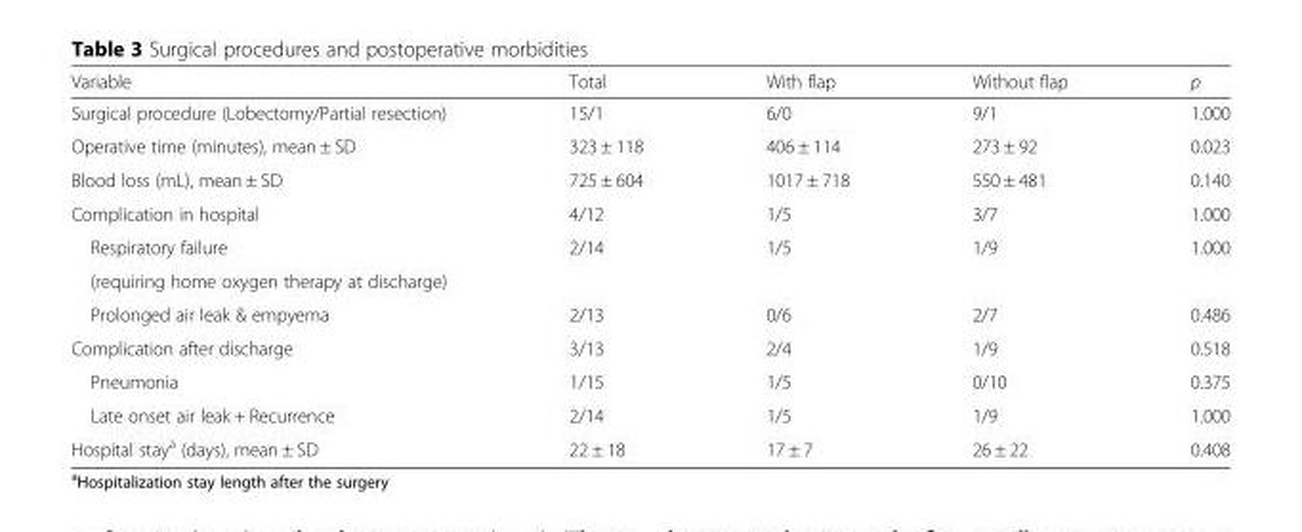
<table><thead><tr><td>Variable</td><td>Total</td><td>With flap</td><td>Without flap</td><td>p</td></tr></thead><tbody><tr><td>Surgical procedure (Lobectomy/Partial resection)</td><td>15/1</td><td>6/0</td><td>9/1</td><td>1.000</td></tr><tr><td>Operative time (minutes), mean ± SD</td><td>323 ± 118</td><td>406 ± 114</td><td>273 ± 92</td><td>0.023</td></tr><tr><td>Blood loss (mL), mean ± SD</td><td>725 ± 604</td><td>1017 ± 718</td><td>550 ± 481</td><td>0.140</td></tr><tr><td>Complication in hospital</td><td>4/12</td><td>1/5</td><td>3/7</td><td>1.000</td></tr><tr><td>Respiratory failure</td><td rowspan="2">2/14</td><td rowspan="2">1/5</td><td rowspan="2">1/9</td><td rowspan="2">1.000</td></tr><tr><td>(requiring home oxygen therapy at discharge)</td></tr><tr><td>Prolonged air leak &amp; empyema</td><td>2/13</td><td>0/6</td><td>2/7</td><td>0.486</td></tr><tr><td>Complication after discharge</td><td>3/13</td><td>2/4</td><td>1/9</td><td>0.518</td></tr><tr><td>Pneumonia</td><td>1/15</td><td>1/5</td><td>0/10</td><td>0.375</td></tr><tr><td>Late onset air leak + Recurrence</td><td>2/14</td><td>1/5</td><td>1/9</td><td>1.000</td></tr><tr><td>Hospital stay<sup>a</sup> (days), mean ± SD</td><td>22 ± 18</td><td>17 ± 7</td><td>26 ± 22</td><td>0.408</td></tr></tbody></table>